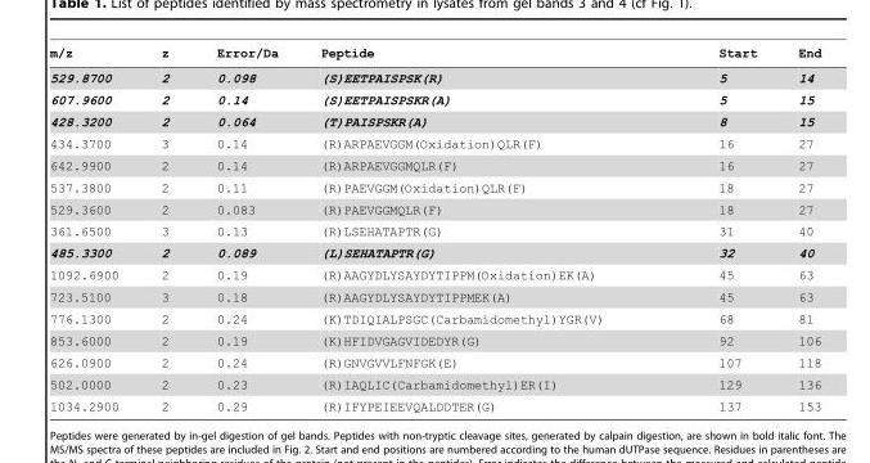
<table><thead><tr><td>m/z</td><td>z</td><td>Error/Da</td><td>Peptide</td><td>Start</td><td>End</td></tr></thead><tbody><tr><td>529.8700</td><td>2</td><td>0.098</td><td>(S)EETPAISPSK(R)</td><td>5</td><td>14</td></tr><tr><td>607.9600</td><td>2</td><td>0.14</td><td>(S)EETPAISPSKR(A)</td><td>5</td><td>15</td></tr><tr><td>428.3200</td><td>2</td><td>0.064</td><td>(T)PAISPSKR(A)</td><td>8</td><td>15</td></tr><tr><td>434.3700</td><td>3</td><td>0.14</td><td>(R)ARPAEVGGM(Oxidation)QLR(F)</td><td>16</td><td>27</td></tr><tr><td>642.9900</td><td>2</td><td>0.14</td><td>(R)ARPAEVGGMQLR(F)</td><td>16</td><td>27</td></tr><tr><td>537.3800</td><td>2</td><td>0.11</td><td>(R)PAEVGGM(Oxidation)QLR(F)</td><td>18</td><td>27</td></tr><tr><td>529.3600</td><td>2</td><td>0.083</td><td>(R)PAEVGGMQLR(F)</td><td>18</td><td>27</td></tr><tr><td>361.6500</td><td>3</td><td>0.13</td><td>(R)LSEHATAPTR(G)</td><td>31</td><td>40</td></tr><tr><td>485.3300</td><td>2</td><td>0.089</td><td>(L)SEHATAPTR(G)</td><td>32</td><td>40</td></tr><tr><td>1092.6900</td><td>2</td><td>0.19</td><td>(R)AAGYDLYSAYDYTIPPM(Oxidation)EK(A)</td><td>45</td><td>63</td></tr><tr><td>723.5100</td><td>3</td><td>0.18</td><td>(R)AAGYDLYSAYDYTIPPMEK(A)</td><td>45</td><td>63</td></tr><tr><td>776.1300</td><td>2</td><td>0.24</td><td>(K)TDIQIALPSGC(Carbamidomethyl)YGR(V)</td><td>68</td><td>81</td></tr><tr><td>853.6000</td><td>2</td><td>0.19</td><td>(K)HFIDVGAGVIDEDYR(G)</td><td>92</td><td>106</td></tr><tr><td>626.0900</td><td>2</td><td>0.24</td><td>(R)GNVGVVLFNFGK(E)</td><td>107</td><td>118</td></tr><tr><td>502.0000</td><td>2</td><td>0.23</td><td>(R)IAQLIC(Carbamidomethyl)ER(I)</td><td>129</td><td>136</td></tr><tr><td>1034.2900</td><td>2</td><td>0.29</td><td>(R)IFYPEIEEVQALDDTER(G)</td><td>137</td><td>153</td></tr></tbody></table>